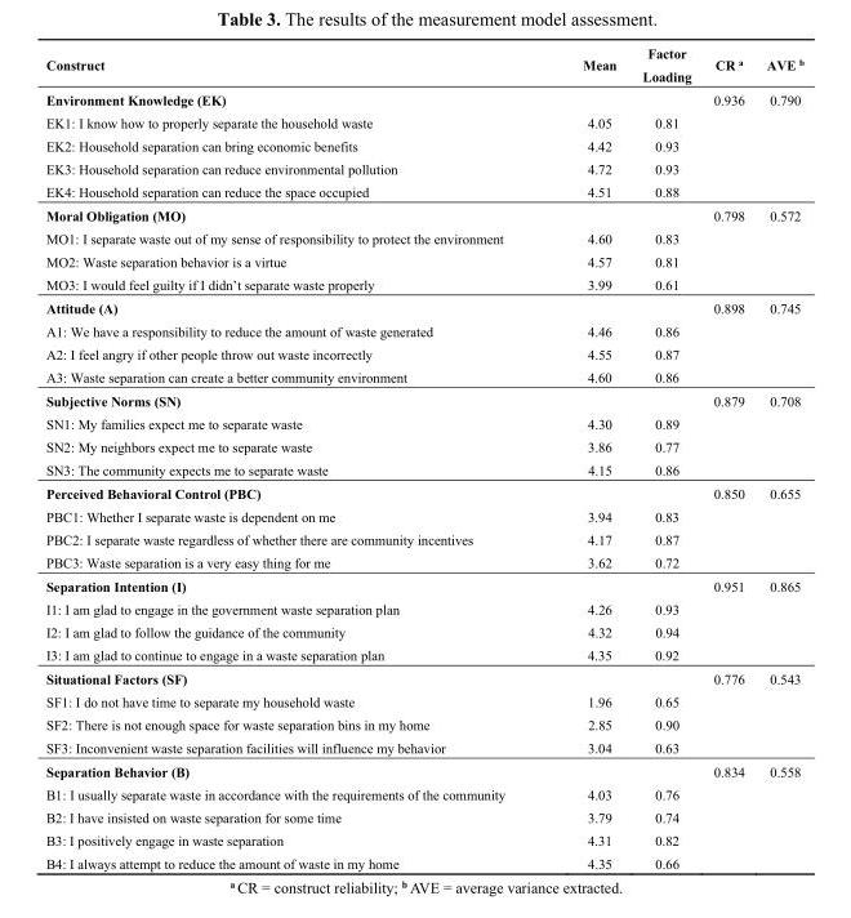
<table><thead><tr><td>Construct</td><td>Mean</td><td>Factor Loading</td><td>CR <sup>a</sup></td><td>AVE <sup>b</sup></td></tr></thead><tbody><tr><td>Environment Knowledge (EK)</td><td></td><td></td><td>0.936</td><td>0.790</td></tr><tr><td>EK1: I know how to properly separate the household waste</td><td>4.05</td><td>0.81</td><td></td><td></td></tr><tr><td>EK2: Household separation can bring economic benefits</td><td>4.42</td><td>0.93</td><td></td><td></td></tr><tr><td>EK3: Household separation can reduce environmental pollution</td><td>4.72</td><td>0.93</td><td></td><td></td></tr><tr><td>EK4: Household separation can reduce the space occupied</td><td>4.51</td><td>0.88</td><td></td><td></td></tr><tr><td>Moral Obligation (MO)</td><td></td><td></td><td>0.798</td><td>0.572</td></tr><tr><td>MO1: I separate waste out of my sense of responsibility to protect the environment</td><td>4.60</td><td>0.83</td><td></td><td></td></tr><tr><td>MO2: Waste separation behavior is a virtue</td><td>4.57</td><td>0.81</td><td></td><td></td></tr><tr><td>MO3: I would feel guilty if I didn’t separate waste properly</td><td>3.99</td><td>0.61</td><td></td><td></td></tr><tr><td>Attitude (A)</td><td></td><td></td><td>0.898</td><td>0.745</td></tr><tr><td>A1: We have a responsibility to reduce the amount of waste generated</td><td>4.46</td><td>0.86</td><td></td><td></td></tr><tr><td>A2: I feel angry if other people throw out waste incorrectly</td><td>4.55</td><td>0.87</td><td></td><td></td></tr><tr><td>A3: Waste separation can create a better community environment</td><td>4.60</td><td>0.86</td><td></td><td></td></tr><tr><td>Subjective Norms (SN)</td><td></td><td></td><td>0.879</td><td>0.708</td></tr><tr><td>SN1: My families expect me to separate waste</td><td>4.30</td><td>0.89</td><td></td><td></td></tr><tr><td>SN2: My neighbors expect me to separate waste</td><td>3.86</td><td>0.77</td><td></td><td></td></tr><tr><td>SN3: The community expects me to separate waste</td><td>4.15</td><td>0.86</td><td></td><td></td></tr><tr><td>Perceived Behavioral Control (PBC)</td><td></td><td></td><td>0.850</td><td>0.655</td></tr><tr><td>PBC1: Whether I separate waste is dependent on me</td><td>3.94</td><td>0.83</td><td></td><td></td></tr><tr><td>PBC2: I separate waste regardless of whether there are community incentives</td><td>4.17</td><td>0.87</td><td></td><td></td></tr><tr><td>PBC3: Waste separation is a very easy thing for me</td><td>3.62</td><td>0.72</td><td></td><td></td></tr><tr><td>Separation Intention (I)</td><td></td><td></td><td>0.951</td><td>0.865</td></tr><tr><td>I1: I am glad to engage in the government waste separation plan</td><td>4.26</td><td>0.93</td><td></td><td></td></tr><tr><td>I2: I am glad to follow the guidance of the community</td><td>4.32</td><td>0.94</td><td></td><td></td></tr><tr><td>I3: I am glad to continue to engage in a waste separation plan</td><td>4.35</td><td>0.92</td><td></td><td></td></tr><tr><td>Situational Factors (SF)</td><td></td><td></td><td>0.776</td><td>0.543</td></tr><tr><td>SF1: I do not have time to separate my household waste</td><td>1.96</td><td>0.65</td><td></td><td></td></tr><tr><td>SF2: There is not enough space for waste separation bins in my home</td><td>2.85</td><td>0.90</td><td></td><td></td></tr><tr><td>SF3: Inconvenient waste separation facilities will influence my behavior</td><td>3.04</td><td>0.63</td><td></td><td></td></tr><tr><td>Separation Behavior (B)</td><td></td><td></td><td>0.834</td><td>0.558</td></tr><tr><td>B1: I usually separate waste in accordance with the requirements of the community</td><td>4.03</td><td>0.76</td><td></td><td></td></tr><tr><td>B2: I have insisted on waste separation for some time</td><td>3.79</td><td>0.74</td><td></td><td></td></tr><tr><td>B3: I positively engage in waste separation</td><td>4.31</td><td>0.82</td><td></td><td></td></tr><tr><td>B4: I always attempt to reduce the amount of waste in my home</td><td>4.35</td><td>0.66</td><td></td><td></td></tr></tbody></table>